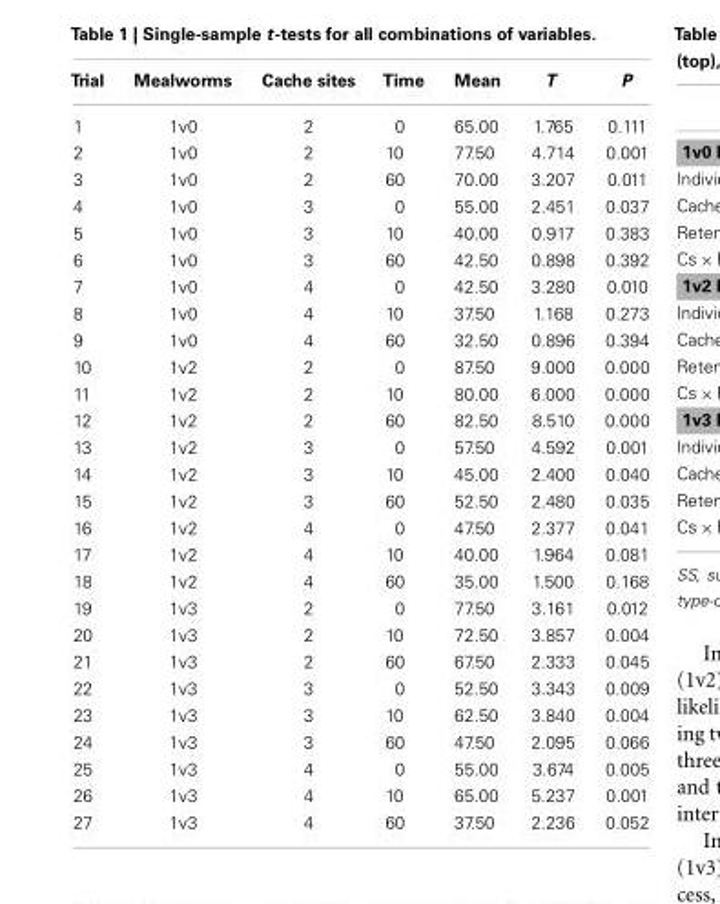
<table><thead><tr><td>Trial</td><td>Mealworms</td><td>Cache sites</td><td>Time</td><td>Mean</td><td>T</td><td>P</td></tr></thead><tbody><tr><td>1</td><td>1v0</td><td>2</td><td>0</td><td>65.00</td><td>1.765</td><td>0.111</td></tr><tr><td>2</td><td>1v0</td><td>2</td><td>10</td><td>77.50</td><td>4.714</td><td>0.001</td></tr><tr><td>3</td><td>1v0</td><td>2</td><td>60</td><td>70.00</td><td>3.207</td><td>0.011</td></tr><tr><td>4</td><td>1v0</td><td>3</td><td>0</td><td>55.00</td><td>2.451</td><td>0.037</td></tr><tr><td>5</td><td>1v0</td><td>3</td><td>10</td><td>40.00</td><td>0.917</td><td>0.383</td></tr><tr><td>6</td><td>1v0</td><td>3</td><td>60</td><td>42.50</td><td>0.898</td><td>0.392</td></tr><tr><td>7</td><td>1v0</td><td>4</td><td>0</td><td>42.50</td><td>3.280</td><td>0.010</td></tr><tr><td>8</td><td>1v0</td><td>4</td><td>10</td><td>37.50</td><td>1.168</td><td>0.273</td></tr><tr><td>9</td><td>1v0</td><td>4</td><td>60</td><td>32.50</td><td>0.896</td><td>0.394</td></tr><tr><td>10</td><td>1v2</td><td>2</td><td>0</td><td>87.50</td><td>9.000</td><td>0.000</td></tr><tr><td>11</td><td>1v2</td><td>2</td><td>10</td><td>80.00</td><td>6.000</td><td>0.000</td></tr><tr><td>12</td><td>1v2</td><td>2</td><td>60</td><td>82.50</td><td>8.510</td><td>0.000</td></tr><tr><td>13</td><td>1v2</td><td>3</td><td>0</td><td>57.50</td><td>4.592</td><td>0.001</td></tr><tr><td>14</td><td>1v2</td><td>3</td><td>10</td><td>45.00</td><td>2.400</td><td>0.040</td></tr><tr><td>15</td><td>1v2</td><td>3</td><td>60</td><td>52.50</td><td>2.480</td><td>0.035</td></tr><tr><td>16</td><td>1v2</td><td>4</td><td>0</td><td>47.50</td><td>2.377</td><td>0.041</td></tr><tr><td>17</td><td>1v2</td><td>4</td><td>10</td><td>40.00</td><td>1.964</td><td>0.081</td></tr><tr><td>18</td><td>1v2</td><td>4</td><td>60</td><td>35.00</td><td>1.500</td><td>0.168</td></tr><tr><td>19</td><td>1v3</td><td>2</td><td>0</td><td>77.50</td><td>3.161</td><td>0.012</td></tr><tr><td>20</td><td>1v3</td><td>2</td><td>10</td><td>72.50</td><td>3.857</td><td>0.004</td></tr><tr><td>21</td><td>1v3</td><td>2</td><td>60</td><td>67.50</td><td>2.333</td><td>0.045</td></tr><tr><td>22</td><td>1v3</td><td>3</td><td>0</td><td>52.50</td><td>3.343</td><td>0.009</td></tr><tr><td>23</td><td>1v3</td><td>3</td><td>10</td><td>62.50</td><td>3.840</td><td>0.004</td></tr><tr><td>24</td><td>1v3</td><td>3</td><td>60</td><td>47.50</td><td>2.095</td><td>0.066</td></tr><tr><td>25</td><td>1v3</td><td>4</td><td>0</td><td>55.00</td><td>3.674</td><td>0.005</td></tr><tr><td>26</td><td>1v3</td><td>4</td><td>10</td><td>65.00</td><td>5.237</td><td>0.001</td></tr><tr><td>27</td><td>1v3</td><td>4</td><td>60</td><td>37.50</td><td>2.236</td><td>0.052</td></tr></tbody></table>